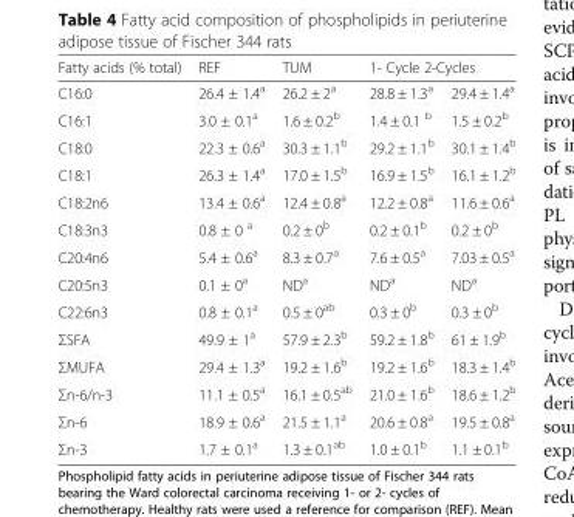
<table><thead><tr><td rowspan="2">Fatty acids (% total) C16:0</td><td rowspan="2">REF 26.4 ± 1.4<sup>a</sup></td><td rowspan="2">TUM 26.2 ± 2<sup>a</sup></td><td colspan="2">1- Cycle 2-Cycles</td></tr><tr><td>28.8 ± 1.3<sup>a</sup></td><td>29.4 ± 1.4<sup>a</sup></td></tr></thead><tbody><tr><td>C16:1</td><td>3.0 ± 0.1<sup>a</sup></td><td>1.6 ± 0.2<sup>b</sup></td><td>1.4 ± 0.1 <sup>b</sup></td><td>1.5 ± 0.2<sup>b</sup></td></tr><tr><td>C18:0</td><td>22.3 ± 0.6<sup>a</sup></td><td>30.3 ± 1.1<sup>b</sup></td><td>29.2 ± 1.1<sup>b</sup></td><td>30.1 ± 1.4<sup>b</sup></td></tr><tr><td>C18:1</td><td>26.3 ± 1.4<sup>a</sup></td><td>17.0 ± 1.5<sup>b</sup></td><td>16.9 ± 1.5<sup>b</sup></td><td>16.1 ± 1.2<sup>b</sup></td></tr><tr><td>C18:2n6</td><td>13.4 ± 0.6<sup>a</sup></td><td>12.4 ± 0.8<sup>a</sup></td><td>12.2 ± 0.8<sup>a</sup></td><td>11.6 ± 0.6<sup>a</sup></td></tr><tr><td>C18:3n3</td><td>0.8 ± 0 <sup>a</sup></td><td>0.2 ± 0<sup>b</sup></td><td>0.2 ± 0.1<sup>b</sup></td><td>0.2 ± 0<sup>b</sup></td></tr><tr><td>C20:4n6</td><td>5.4 ± 0.6<sup>a</sup></td><td>8.3 ± 0.7<sup>a</sup></td><td>7.6 ± 0.5<sup>a</sup></td><td>7.03 ± 0.5<sup>a</sup></td></tr><tr><td>C20:5n3</td><td>0.1 ± 0<sup>a</sup></td><td>ND<sup>a</sup></td><td>ND<sup>a</sup></td><td>ND<sup>a</sup></td></tr><tr><td>C22:6n3</td><td>0.8 ± 0.1<sup>a</sup></td><td>0.5 ± 0<sup>ab</sup></td><td>0.3 ± 0<sup>b</sup></td><td>0.3 ± 0<sup>b</sup></td></tr><tr><td>ΣSFA</td><td>49.9 ± 1<sup>a</sup></td><td>57.9 ± 2.3<sup>b</sup></td><td>59.2 ± 1.8<sup>b</sup></td><td>61 ± 1.9<sup>b</sup></td></tr><tr><td>ΣMUFA</td><td>29.4 ± 1.3<sup>a</sup></td><td>19.2 ± 1.6<sup>b</sup></td><td>19.2 ± 1.6<sup>b</sup></td><td>18.3 ± 1.4<sup>b</sup></td></tr><tr><td>Σn-6/n-3</td><td>11.1 ± 0.5<sup>a</sup></td><td>16.1 ± 0.5<sup>ab</sup></td><td>21.0 ± 1.6<sup>b</sup></td><td>18.6 ± 1.2<sup>b</sup></td></tr><tr><td>Σn-6</td><td>18.9 ± 0.6<sup>a</sup></td><td>21.5 ± 1.1<sup>a</sup></td><td>20.6 ± 0.8<sup>a</sup></td><td>19.5 ± 0.8<sup>a</sup></td></tr><tr><td>Σn-3</td><td>1.7 ± 0.1<sup>a</sup></td><td>1.3 ± 0.1<sup>ab</sup></td><td>1.0 ± 0.1<sup>b</sup></td><td>1.1 ± 0.1<sup>b</sup></td></tr></tbody></table>